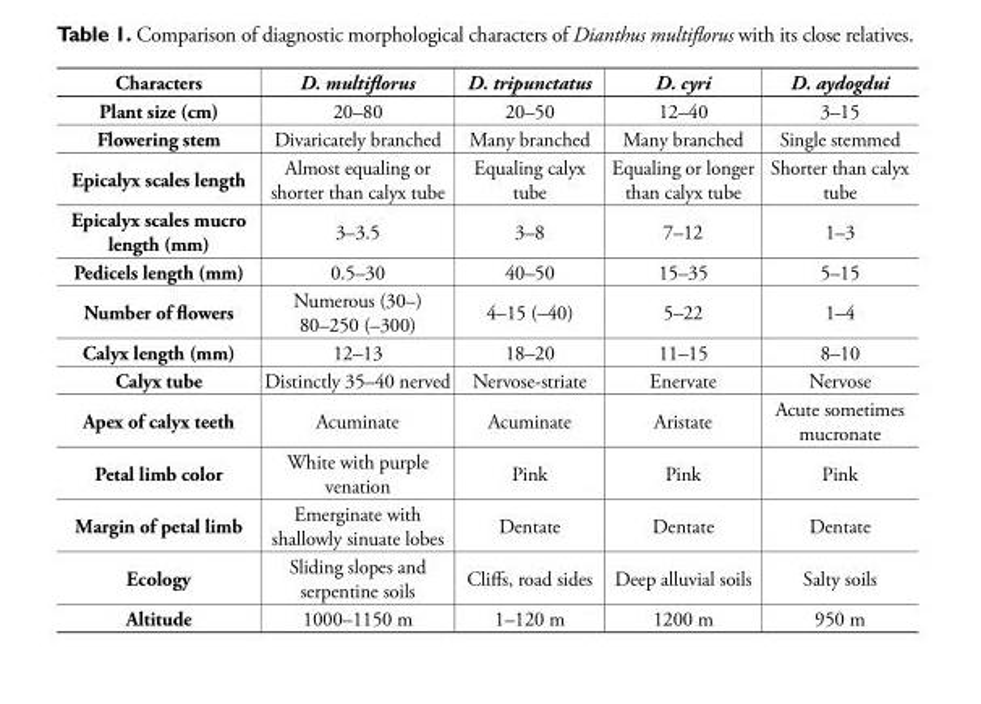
<table><thead><tr><td>Characters</td><td>D. multifl orus</td><td>D. tripunctatus</td><td>D. cyri</td><td>D. aydogdui</td></tr></thead><tbody><tr><td>Plant size (cm)</td><td>20–80</td><td>20–50</td><td>12–40</td><td>3–15</td></tr><tr><td>Flowering stem</td><td>Divaricately branched</td><td>Many branched</td><td>Many branched</td><td>Single stemmed</td></tr><tr><td>Epicalyx scales length</td><td>Almost equaling or shorter than calyx tube</td><td>Equaling calyx tube</td><td>Equaling or longer than calyx tube</td><td>Shorter than calyx tube</td></tr><tr><td>Epicalyx scales mucro length (mm)</td><td>3–3.5</td><td>3–8</td><td>7–12</td><td>1–3</td></tr><tr><td>Pedicels length (mm)</td><td>0.5–30</td><td>40–50</td><td>15–35</td><td>5–15</td></tr><tr><td>Number of fl owers</td><td>Numerous (30–) 80–250 (–300)</td><td>4–15 (–40)</td><td>5–22</td><td>1–4</td></tr><tr><td>Calyx length (mm)</td><td>12–13</td><td>18–20</td><td>11–15</td><td>8–10</td></tr><tr><td>Calyx tube</td><td>Distinctly 35–40 nerved</td><td>Nervose-striate</td><td>Enervate</td><td>Nervose</td></tr><tr><td>Apex of calyx teeth</td><td>Acuminate</td><td>Acuminate</td><td>Aristate</td><td>Acute sometimes mucronate</td></tr><tr><td>Petal limb color</td><td>White with purple venation</td><td>Pink</td><td>Pink</td><td>Pink</td></tr><tr><td>Margin of petal limb</td><td>Emerginate with shallowly sinuate lobes</td><td>Dentate</td><td>Dentate</td><td>Dentate</td></tr><tr><td>Ecology</td><td>Sliding slopes and serpentine soils</td><td>Cliff s, road sides</td><td>Deep alluvial soils</td><td>Salty soils</td></tr><tr><td>Altitude</td><td>1000–1150 m</td><td>1–120 m</td><td>1200 m</td><td>950 m</td></tr></tbody></table>